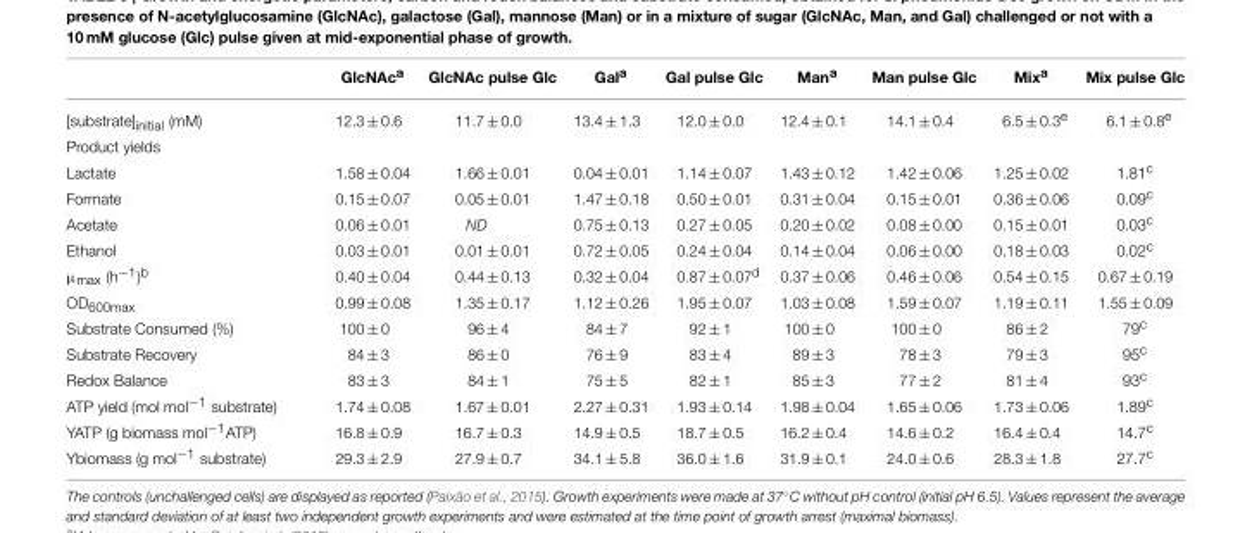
<table><thead><tr><td></td><td>GlcNAc<sup>a</sup></td><td>GlcNAc pulse Glc</td><td>Gal<sup>a</sup></td><td>Gal pulse Glc</td><td>Man<sup>a</sup></td><td>Man pulse Glc</td><td>Mix<sup>a</sup></td><td>Mix pulse Glc</td></tr></thead><tbody><tr><td>[substrate]<sub>initial</sub> (mM)</td><td>12.3 ± 0.6</td><td>11.7 ± 0.0</td><td>13.4 ± 1.3</td><td>12.0 ± 0.0</td><td>12.4 ± 0.1</td><td>14.1 ± 0.4</td><td>6.5 ± 0.3<sup>e</sup></td><td>6.1 ± 0.8<sup>e</sup></td></tr><tr><td colspan="9">Product yields</td></tr><tr><td>Lactate</td><td>1.58 ± 0.04</td><td>1.66 ± 0.01</td><td>0.04 ± 0.01</td><td>1.14 ± 0.07</td><td>1.43 ± 0.12</td><td>1.42 ± 0.06</td><td>1.25 ± 0.02</td><td>1.81c</td></tr><tr><td>Formate</td><td>0.15 ± 0.07</td><td>0.05 ± 0.01</td><td>1.47 ± 0.18</td><td>0.50 ± 0.01</td><td>0.31 ± 0.04</td><td>0.15 ± 0.01</td><td>0.36 ± 0.06</td><td>0.09<sup>c</sup></td></tr><tr><td>Acetate</td><td>0.06 ± 0.01</td><td>ND</td><td>0.75 ± 0.13</td><td>0.27 ± 0.05</td><td>0.20 ± 0.02</td><td>0.08 ± 0.00</td><td>0.15 ± 0.01</td><td>0.03<sup>c</sup></td></tr><tr><td>Ethanol</td><td>0.03 ± 0.01</td><td>0.01 ± 0.01</td><td>0.72 ± 0.05</td><td>0.24 ± 0.04</td><td>0.14 ± 0.04</td><td>0.06 ± 0.00</td><td>0.18 ± 0.03</td><td>0.02<sup>c</sup></td></tr><tr><td>µ<sub>max</sub> (h<sup>−1</sup>)<sup>b</sup></td><td>0.40 ± 0.04</td><td>0.44 ± 0.13</td><td>0.32 ± 0.04</td><td>0.87 ± 0.07<sup>d</sup></td><td>0.37 ± 0.06</td><td>0.46 ± 0.06</td><td>0.54 ± 0.15</td><td>0.67 ± 0.19</td></tr><tr><td>OD<sub>600max</sub></td><td>0.99 ± 0.08</td><td>1.35 ± 0.17</td><td>1.12 ± 0.26</td><td>1.95 ± 0.07</td><td>1.03 ± 0.08</td><td>1.59 ± 0.07</td><td>1.19 ± 0.11</td><td>1.55 ± 0.09</td></tr><tr><td>Substrate Consumed (%)</td><td>100 ± 0</td><td>96 ± 4</td><td>84 ± 7</td><td>92 ± 1</td><td>100 ± 0</td><td>100 ± 0</td><td>86 ± 2</td><td>79<sup>c</sup></td></tr><tr><td>Substrate Recovery</td><td>84 ± 3</td><td>86 ± 0</td><td>76 ± 9</td><td>83 ± 4</td><td>89 ± 3</td><td>78 ± 3</td><td>79 ± 3</td><td>95<sup>c</sup></td></tr><tr><td>Redox Balance</td><td>83 ± 3</td><td>84 ± 1</td><td>75 ± 5</td><td>82 ± 1</td><td>85 ± 3</td><td>77 ± 2</td><td>81 ± 4</td><td>93<sup>c</sup></td></tr><tr><td>ATP yield (mol mol<sup>−1</sup> substrate)</td><td>1.74 ± 0.08</td><td>1.67 ± 0.01</td><td>2.27 ± 0.31</td><td>1.93 ± 0.14</td><td>1.98 ± 0.04</td><td>1.65 ± 0.06</td><td>1.73 ± 0.06</td><td>1.89<sup>c</sup></td></tr><tr><td>YATP (g biomass mol<sup>−1</sup>ATP)</td><td>16.8 ± 0.9</td><td>16.7 ± 0.3</td><td>14.9 ± 0.5</td><td>18.7 ± 0.5</td><td>16.2 ± 0.4</td><td>14.6 ± 0.2</td><td>16.4 ± 0.4</td><td>14.7<sup>c</sup></td></tr><tr><td>Ybiomass (g mol<sup>−1</sup> substrate)</td><td>29.3 ± 2.9</td><td>27.9 ± 0.7</td><td>34.1 ± 5.8</td><td>36.0 ± 1.6</td><td>31.9 ± 0.1</td><td>24.0 ± 0.6</td><td>28.3 ± 1.8</td><td>27.7<sup>c</sup></td></tr></tbody></table>